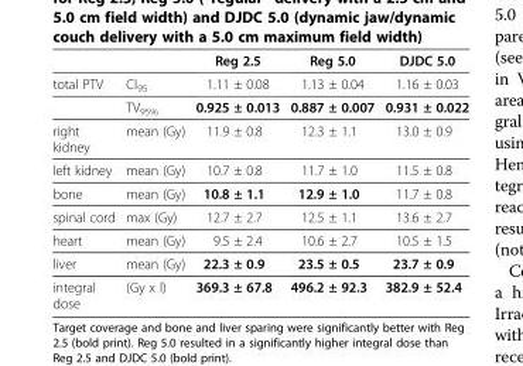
<table><thead><tr><td></td><td></td><td>Reg 2.5</td><td>Reg 5.0</td><td>DJDC 5.0</td></tr></thead><tbody><tr><td rowspan="2">total PTV</td><td>CI<sub>95</sub></td><td>1.11 ± 0.08</td><td>1.13 ± 0.04</td><td>1.16 ± 0.03</td></tr><tr><td>TV<sub>95%</sub></td><td>0.925 ± 0.013</td><td>0.887 ± 0.007</td><td>0.931 ± 0.022</td></tr><tr><td>right kidney</td><td>mean (Gy)</td><td>11.9 ± 0.8</td><td>12.3 ± 1.1</td><td>13.0 ± 0.9</td></tr><tr><td>left kidney</td><td>mean (Gy)</td><td>10.7 ± 0.8</td><td>11.7 ± 1.0</td><td>11.5 ± 0.8</td></tr><tr><td>bone</td><td>mean (Gy)</td><td>10.8 ± 1.1</td><td>12.9 ± 1.0</td><td>11.7 ± 0.8</td></tr><tr><td>spinal cord</td><td>max (Gy)</td><td>12.7 ± 2.7</td><td>12.5 ± 1.1</td><td>13.6 ± 2.7</td></tr><tr><td>heart</td><td>mean (Gy)</td><td>9.5 ± 2.4</td><td>10.6 ± 2.7</td><td>10.5 ± 1.5</td></tr><tr><td>liver</td><td>mean (Gy)</td><td>22.3 ± 0.9</td><td>23.5 ± 0.5</td><td>23.7 ± 0.9</td></tr><tr><td>integral dose</td><td>(Gy x l)</td><td>369.3 ± 67.8</td><td>496.2 ± 92.3</td><td>382.9 ± 52.4</td></tr></tbody></table>